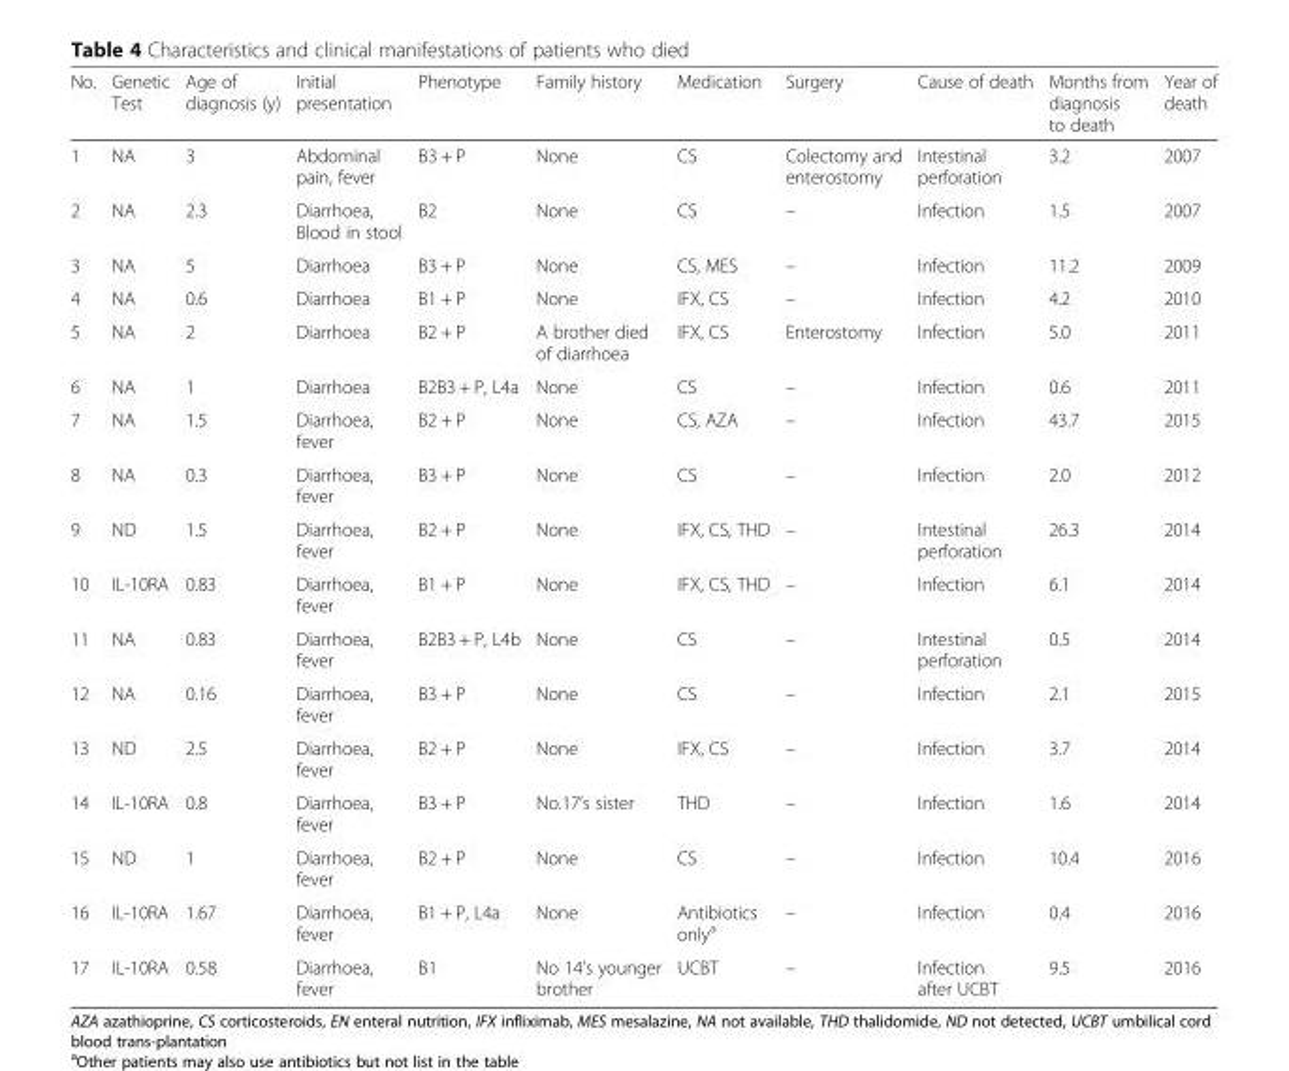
<table><thead><tr><td>No.</td><td>Genetic Test</td><td>Age of diagnosis (y)</td><td>Initial presentation</td><td>Phenotype</td><td>Family history</td><td>Medication</td><td>Surgery</td><td>Cause of death</td><td>Months from diagnosis to death</td><td>Year of death</td></tr></thead><tbody><tr><td>1</td><td>NA</td><td>3</td><td>Abdominal pain, fever</td><td>B3 + P</td><td>None</td><td>CS</td><td>Colectomy and enterostomy</td><td>Intestinal perforation</td><td>3.2</td><td>2007</td></tr><tr><td>2</td><td>NA</td><td>2.3</td><td>Diarrhoea, Blood in stool</td><td>B2</td><td>None</td><td>CS</td><td>–</td><td>Infection</td><td>1.5</td><td>2007</td></tr><tr><td>3</td><td>NA</td><td>5</td><td>Diarrhoea</td><td>B3 + P</td><td>None</td><td>CS, MES</td><td>–</td><td>Infection</td><td>11.2</td><td>2009</td></tr><tr><td>4</td><td>NA</td><td>0.6</td><td>Diarrhoea</td><td>B1 + P</td><td>None</td><td>IFX, CS</td><td>–</td><td>Infection</td><td>4.2</td><td>2010</td></tr><tr><td>5</td><td>NA</td><td>2</td><td>Diarrhoea</td><td>B2 + P</td><td>A brother died of diarrhoea</td><td>IFX, CS</td><td>Enterostomy</td><td>Infection</td><td>5.0</td><td>2011</td></tr><tr><td>6</td><td>NA</td><td>1</td><td>Diarrhoea</td><td>B2B3 + P, L4a</td><td>None</td><td>CS</td><td>–</td><td>Infection</td><td>0.6</td><td>2011</td></tr><tr><td>7</td><td>NA</td><td>1.5</td><td>Diarrhoea, fever</td><td>B2 + P</td><td>None</td><td>CS, AZA</td><td>–</td><td>Infection</td><td>43.7</td><td>2015</td></tr><tr><td>8</td><td>NA</td><td>0.3</td><td>Diarrhoea, fever</td><td>B3 + P</td><td>None</td><td>CS</td><td>–</td><td>Infection</td><td>2.0</td><td>2012</td></tr><tr><td>9</td><td>ND</td><td>1.5</td><td>Diarrhoea, fever</td><td>B2 + P</td><td>None</td><td>IFX, CS, THD</td><td>–</td><td>Intestinal perforation</td><td>26.3</td><td>2014</td></tr><tr><td>10</td><td>IL-10RA</td><td>0.83</td><td>Diarrhoea, fever</td><td>B1 + P</td><td>None</td><td>IFX, CS, THD</td><td>–</td><td>Infection</td><td>6.1</td><td>2014</td></tr><tr><td>11</td><td>NA</td><td>0.83</td><td>Diarrhoea, fever</td><td>B2B3 + P, L4b</td><td>None</td><td>CS</td><td>–</td><td>Intestinal perforation</td><td>0.5</td><td>2014</td></tr><tr><td>12</td><td>NA</td><td>0.16</td><td>Diarrhoea, fever</td><td>B3 + P</td><td>None</td><td>CS</td><td>–</td><td>Infection</td><td>2.1</td><td>2015</td></tr><tr><td>13</td><td>ND</td><td>2.5</td><td>Diarrhoea, fever</td><td>B2 + P</td><td>None</td><td>IFX, CS</td><td>–</td><td>Infection</td><td>3.7</td><td>2014</td></tr><tr><td>14</td><td>IL-10RA</td><td>0.8</td><td>Diarrhoea, fever</td><td>B3 + P</td><td>No.17’s sister</td><td>THD</td><td>–</td><td>Infection</td><td>1.6</td><td>2014</td></tr><tr><td>15</td><td>ND</td><td>1</td><td>Diarrhoea, fever</td><td>B2 + P</td><td>None</td><td>CS</td><td>–</td><td>Infection</td><td>10.4</td><td>2016</td></tr><tr><td>16</td><td>IL-10RA</td><td>1.67</td><td>Diarrhoea, fever</td><td>B1 + P, L4a</td><td>None</td><td>Antibiotics only<sup>a</sup></td><td>–</td><td>Infection</td><td>0.4</td><td>2016</td></tr><tr><td>17</td><td>IL-10RA</td><td>0.58</td><td>Diarrhoea, fever</td><td>B1</td><td>No 14’s younger brother</td><td>UCBT</td><td>–</td><td>Infection after UCBT</td><td>9.5</td><td>2016</td></tr></tbody></table>